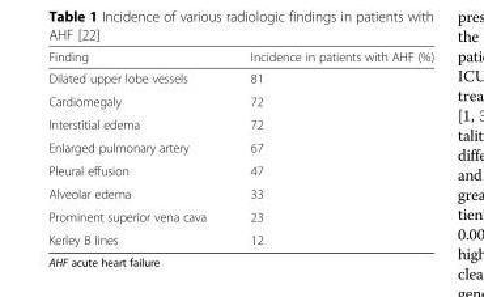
<table><thead><tr><td>Finding</td><td>Incidence in patients with AHF (%)</td></tr></thead><tbody><tr><td>Dilated upper lobe vessels</td><td>81</td></tr><tr><td>Cardiomegaly</td><td>72</td></tr><tr><td>Interstitial edema</td><td>72</td></tr><tr><td>Enlarged pulmonary artery</td><td>67</td></tr><tr><td>Pleural effusion</td><td>47</td></tr><tr><td>Alveolar edema</td><td>33</td></tr><tr><td>Prominent superior vena cava</td><td>23</td></tr><tr><td>Kerley B lines</td><td>12</td></tr></tbody></table>